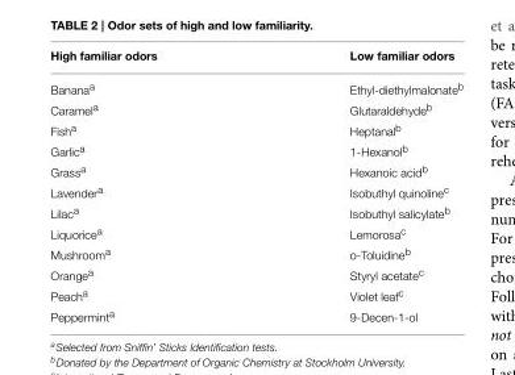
<table><thead><tr><td>High familiar odors</td><td>Low familiar odors</td></tr></thead><tbody><tr><td>Banana<sup>a</sup></td><td>Ethyl-diethylmalonate<sup>b</sup></td></tr><tr><td>Caramel<sup>a</sup></td><td>Glutaraldehyde<sup>b</sup></td></tr><tr><td>Fish<sup>a</sup></td><td>Heptanal<sup>b</sup></td></tr><tr><td>Garlic<sup>a</sup></td><td>1-Hexanol<sup>b</sup></td></tr><tr><td>Grass<sup>a</sup></td><td>Hexanoic acid<sup>b</sup></td></tr><tr><td>Lavender<sup>a</sup></td><td>Isobuthyl quinoline<sup>c</sup></td></tr><tr><td>Lilac<sup>a</sup></td><td>Isobuthyl salicylate<sup>b</sup></td></tr><tr><td>Liquorice<sup>a</sup></td><td>Lemorosa<sup>c</sup></td></tr><tr><td>Mushroom<sup>a</sup></td><td>o-Toluidine<sup>b</sup></td></tr><tr><td>Orange<sup>a</sup></td><td>Styryl acetate<sup>c</sup></td></tr><tr><td>Peach<sup>a</sup></td><td>Violet leaf<sup>c</sup></td></tr><tr><td>Peppermint<sup>a</sup></td><td>9-Decen-1-ol</td></tr></tbody></table>